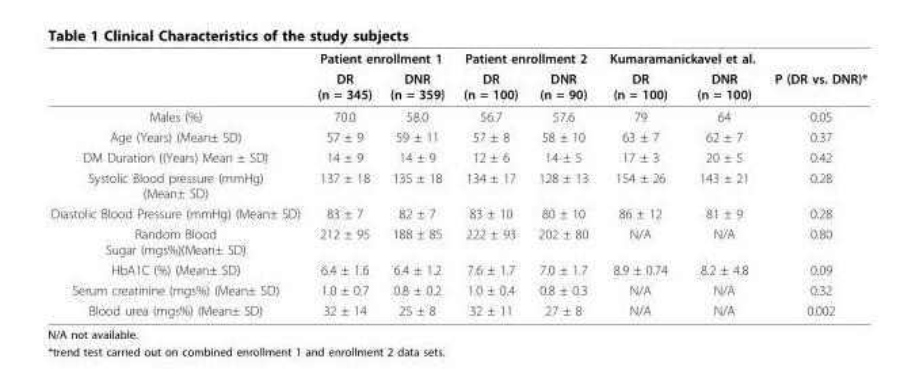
<table><thead><tr><td rowspan="2"></td><td colspan="2">Patient enrollment 1</td><td colspan="2">Patient enrollment 2</td><td colspan="2">Kumaramanickavel et al.</td><td rowspan="2">P (DR vs. DNR)*</td></tr><tr><td>DR (n = 345)</td><td>DNR (n = 359)</td><td>DR (n = 100)</td><td>DNR (n = 90)</td><td>DR (n = 100)</td><td>DNR (n = 100)</td></tr></thead><tbody><tr><td>Males (%)</td><td>70.0</td><td>58.0</td><td>56.7</td><td>57.6</td><td>79</td><td>64</td><td>0.05</td></tr><tr><td>Age (Years) (Mean± SD)</td><td>57 ± 9</td><td>59 ± 11</td><td>57 ± 8</td><td>58 ± 10</td><td>63 ± 7</td><td>62 ± 7</td><td>0.37</td></tr><tr><td>DM Duration ((Years) Mean ± SD)</td><td>14 ± 9</td><td>14 ± 9</td><td>12 ± 6</td><td>14 ± 5</td><td>17 ± 3</td><td>20 ± 5</td><td>0.42</td></tr><tr><td>Systolic Blood pressure (mmHg) (Mean± SD)</td><td>137 ± 18</td><td>135 ± 18</td><td>134 ± 17</td><td>128 ± 13</td><td>154 ± 26</td><td>143 ± 21</td><td>0.28</td></tr><tr><td>Diastolic Blood Pressure (mmHg) (Mean± SD)</td><td>83 ± 7</td><td>82 ± 7</td><td>83 ± 10</td><td>80 ± 10</td><td>86 ± 12</td><td>81 ± 9</td><td>0.28</td></tr><tr><td>Random Blood Sugar (mgs%)(Mean± SD)</td><td>212 ± 95</td><td>188 ± 85</td><td>222 ± 93</td><td>202 ± 80</td><td>N/A</td><td>N/A</td><td>0.80</td></tr><tr><td>HbA1C (%) (Mean± SD)</td><td>6.4 ± 1.6</td><td>6.4 ± 1.2</td><td>7.6 ± 1.7</td><td>7.0 ± 1.7</td><td>8.9 ± 0.74</td><td>8.2 ± 4.8</td><td>0.09</td></tr><tr><td>Serum creatinine (mgs%) (Mean± SD)</td><td>1.0 ± 0.7</td><td>0.8 ± 0.2</td><td>1.0 ± 0.4</td><td>0.8 ± 0.3</td><td>N/A</td><td>N/A</td><td>0.32</td></tr><tr><td>Blood urea (mgs%) (Mean± SD)</td><td>32 ± 14</td><td>25 ± 8</td><td>32 ± 11</td><td>27 ± 8</td><td>N/A</td><td>N/A</td><td>0.002</td></tr></tbody></table>